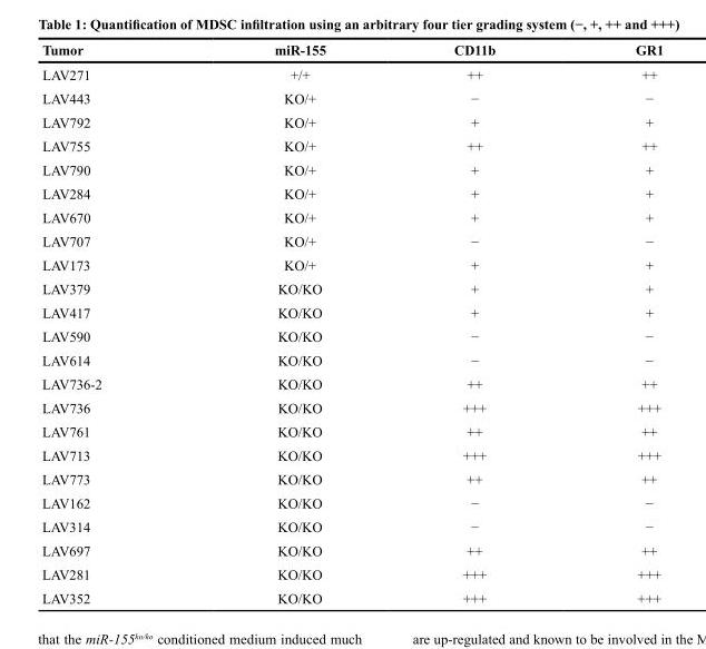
<table><thead><tr><td>Tumor</td><td>miR-155</td><td>CD11b</td><td>GR1</td></tr></thead><tbody><tr><td>LAV271</td><td>+/+</td><td>++</td><td>++</td></tr><tr><td>LAV443</td><td>KO/+</td><td>−</td><td>−</td></tr><tr><td>LAV792</td><td>KO/+</td><td>+</td><td>+</td></tr><tr><td>LAV755</td><td>KO/+</td><td>++</td><td>++</td></tr><tr><td>LAV790</td><td>KO/+</td><td>+</td><td>+</td></tr><tr><td>LAV284</td><td>KO/+</td><td>+</td><td>+</td></tr><tr><td>LAV670</td><td>KO/+</td><td>+</td><td>+</td></tr><tr><td>LAV707</td><td>KO/+</td><td>−</td><td>−</td></tr><tr><td>LAV173</td><td>KO/+</td><td>+</td><td>+</td></tr><tr><td>LAV379</td><td>KO/KO</td><td>+</td><td>+</td></tr><tr><td>LAV417</td><td>KO/KO</td><td>+</td><td>+</td></tr><tr><td>LAV590</td><td>KO/KO</td><td>−</td><td>−</td></tr><tr><td>LAV614</td><td>KO/KO</td><td>−</td><td>−</td></tr><tr><td>LAV736-2</td><td>KO/KO</td><td>++</td><td>++</td></tr><tr><td>LAV736</td><td>KO/KO</td><td>+++</td><td>+++</td></tr><tr><td>LAV761</td><td>KO/KO</td><td>++</td><td>++</td></tr><tr><td>LAV713</td><td>KO/KO</td><td>+++</td><td>+++</td></tr><tr><td>LAV773</td><td>KO/KO</td><td>++</td><td>++</td></tr><tr><td>LAV162</td><td>KO/KO</td><td>−</td><td>−</td></tr><tr><td>LAV314</td><td>KO/KO</td><td>−</td><td>−</td></tr><tr><td>LAV697</td><td>KO/KO</td><td>++</td><td>++</td></tr><tr><td>LAV281</td><td>KO/KO</td><td>+++</td><td>+++</td></tr><tr><td>LAV352</td><td>KO/KO</td><td>+++</td><td>+++</td></tr></tbody></table>